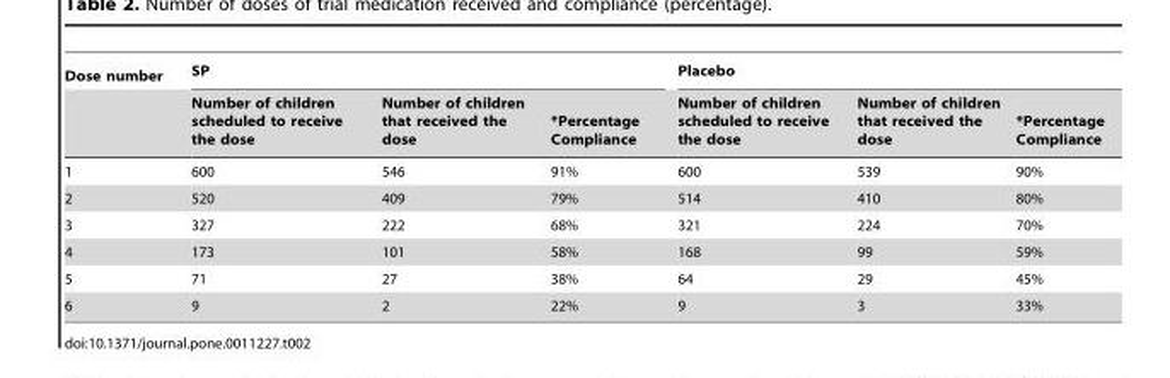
<table><thead><tr><td rowspan="2">Dose number</td><td colspan="3">SP</td><td colspan="3">Placebo</td></tr><tr><td>Number of children scheduled to receive the dose</td><td>Number of children that received the dose</td><td>*Percentage Compliance</td><td>Number of children scheduled to receive the dose</td><td>Number of children that received the dose</td><td>*Percentage Compliance</td></tr></thead><tbody><tr><td>1</td><td>600</td><td>546</td><td>91%</td><td>600</td><td>539</td><td>90%</td></tr><tr><td>2</td><td>520</td><td>409</td><td>79%</td><td>514</td><td>410</td><td>80%</td></tr><tr><td>3</td><td>327</td><td>222</td><td>68%</td><td>321</td><td>224</td><td>70%</td></tr><tr><td>4</td><td>173</td><td>101</td><td>58%</td><td>168</td><td>99</td><td>59%</td></tr><tr><td>5</td><td>71</td><td>27</td><td>38%</td><td>64</td><td>29</td><td>45%</td></tr><tr><td>6</td><td>9</td><td>2</td><td>22%</td><td>9</td><td>3</td><td>33%</td></tr></tbody></table>